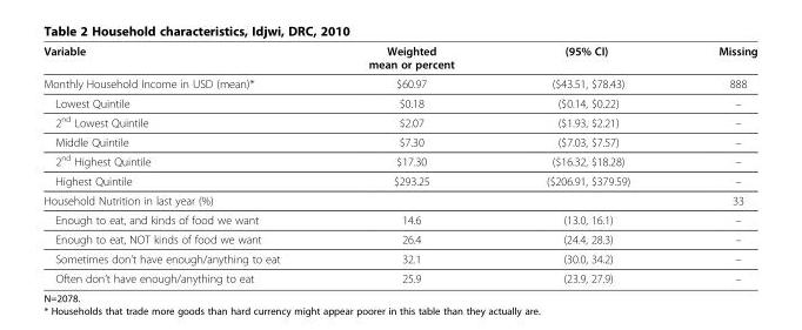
<table><thead><tr><td>Variable</td><td>Weighted mean or percent</td><td>(95% CI)</td><td>Missing</td></tr></thead><tbody><tr><td>Monthly Household Income in USD (mean)*</td><td>$60.97</td><td>($43.51, $78.43)</td><td>888</td></tr><tr><td>Lowest Quintile</td><td>$0.18</td><td>($0.14, $0.22)</td><td>–</td></tr><tr><td>2<sup>nd</sup> Lowest Quintile</td><td>$2.07</td><td>($1.93, $2.21)</td><td>–</td></tr><tr><td>Middle Quintile</td><td>$7.30</td><td>($7.03, $7.57)</td><td>–</td></tr><tr><td>2<sup>nd</sup> Highest Quintile</td><td>$17.30</td><td>($16.32, $18.28)</td><td>–</td></tr><tr><td>Highest Quintile</td><td>$293.25</td><td>($206.91, $379.59)</td><td>–</td></tr><tr><td>Household Nutrition in last year (%)</td><td></td><td></td><td>33</td></tr><tr><td>Enough to eat, and kinds of food we want</td><td>14.6</td><td>(13.0, 16.1)</td><td>–</td></tr><tr><td>Enough to eat, NOT kinds of food we want</td><td>26.4</td><td>(24.4, 28.3)</td><td>–</td></tr><tr><td>Sometimes don’t have enough/anything to eat</td><td>32.1</td><td>(30.0, 34.2)</td><td>–</td></tr><tr><td>Often don’t have enough/anything to eat</td><td>25.9</td><td>(23.9, 27.9)</td><td>–</td></tr></tbody></table>